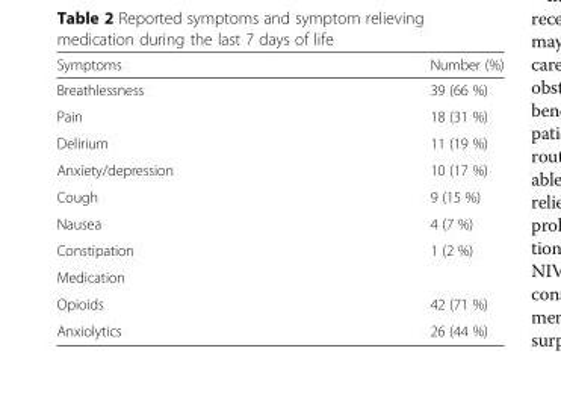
<table><thead><tr><td>Symptoms</td><td>Number (%)</td></tr></thead><tbody><tr><td>Breathlessness</td><td>39 (66 %)</td></tr><tr><td>Pain</td><td>18 (31 %)</td></tr><tr><td>Delirium</td><td>11 (19 %)</td></tr><tr><td>Anxiety/depression</td><td>10 (17 %)</td></tr><tr><td>Cough</td><td>9 (15 %)</td></tr><tr><td>Nausea</td><td>4 (7 %)</td></tr><tr><td>Constipation</td><td>1 (2 %)</td></tr><tr><td colspan="2">Medication</td></tr><tr><td>Opioids</td><td>42 (71 %)</td></tr><tr><td>Anxiolytics</td><td>26 (44 %)</td></tr></tbody></table>